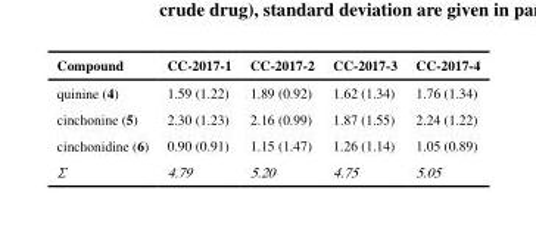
<table><thead><tr><td>Compound</td><td>CC-2017-1</td><td>CC-2017-2</td><td>CC-2017-3</td><td>CC-2017-4</td></tr></thead><tbody><tr><td>quinine (4)</td><td>1.59 (1.22)</td><td>1.89 (0.92)</td><td>1.62 (1.34)</td><td>1.76 (1.34)</td></tr><tr><td>cinchonine (5)</td><td>2.30 (1.23)</td><td>2.16 (0.99)</td><td>1.87 (1.55)</td><td>2.24 (1.22)</td></tr><tr><td>cinchonidine (6)</td><td>0.90 (0.91)</td><td>1.15 (1.47)</td><td>1.26 (1.14)</td><td>1.05 (0.89)</td></tr><tr><td>Σ</td><td>4.79</td><td>5.20</td><td>4.75</td><td>5.05</td></tr></tbody></table>